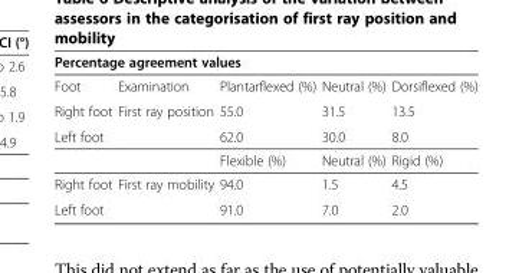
<table><thead><tr><td colspan="5">Percentage agreement values</td></tr><tr><td>Foot</td><td>Examination</td><td>Plantarflexed (%)</td><td>Neutral (%)</td><td>Dorsiflexed (%)</td></tr></thead><tbody><tr><td>Right foot</td><td>First ray position</td><td>55.0</td><td>31.5</td><td>13.5</td></tr><tr><td rowspan="2">Left foot</td><td></td><td>62.0</td><td>30.0</td><td>8.0</td></tr><tr><td></td><td>Flexible (%)</td><td>Neutral (%)</td><td>Rigid (%)</td></tr><tr><td>Right foot</td><td>First ray mobility</td><td>94.0</td><td>1.5</td><td>4.5</td></tr><tr><td>Left foot</td><td></td><td>91.0</td><td>7.0</td><td>2.0</td></tr></tbody></table>